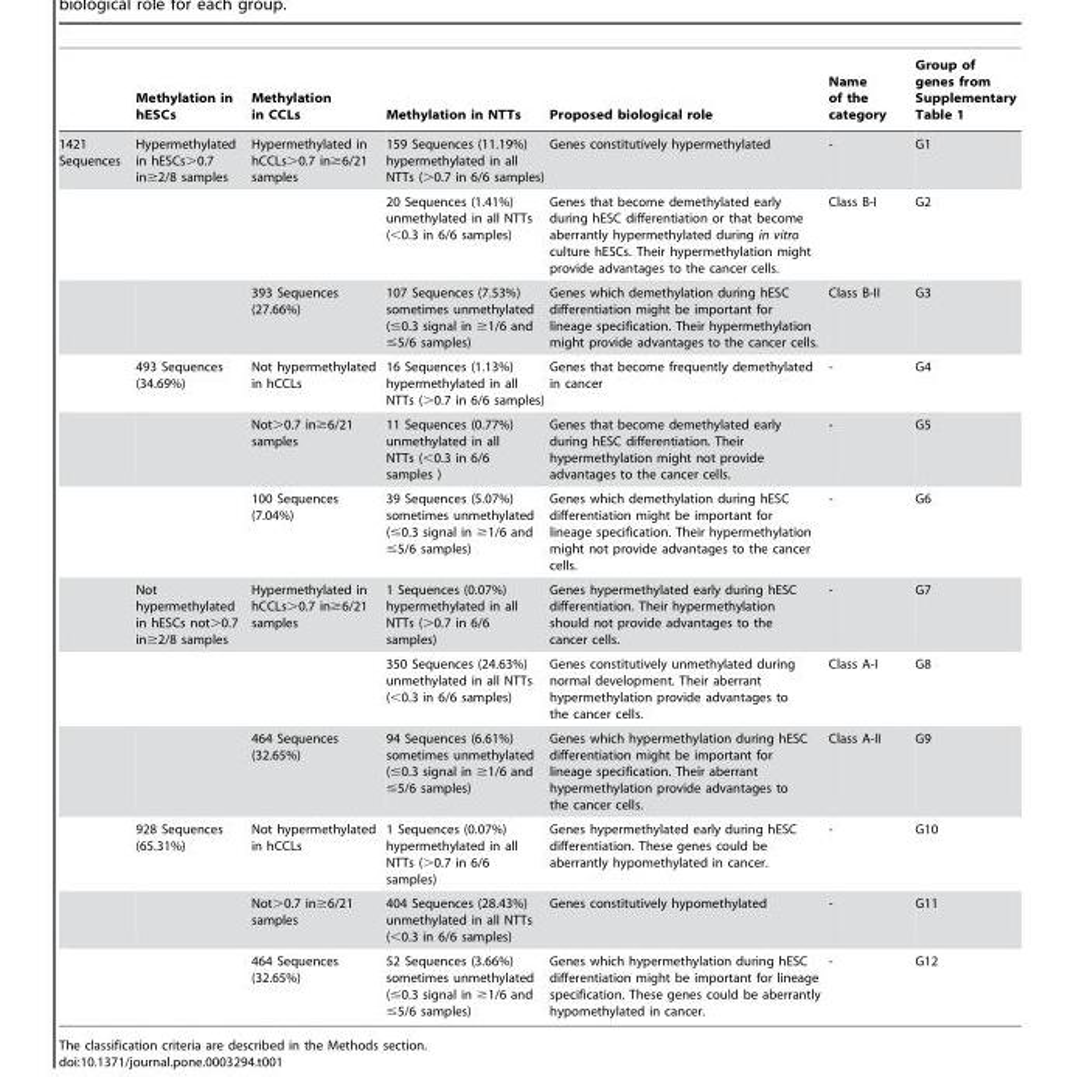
<table><thead><tr><td></td><td>Methylation in hESCs</td><td>Methylation in CCLs</td><td>Methylation in NTTs</td><td>Proposed biological role</td><td>Name of the category</td><td>Group of genes from Supplementary Table 1</td></tr></thead><tbody><tr><td rowspan="12">1421 Sequences</td><td>Hypermethylated in hESCs&gt;0.7 in≥2/8 samples</td><td>Hypermethylated in hCCLs&gt;0.7 in≥6/21 samples</td><td>159 Sequences (11.19%) hypermethylated in all NTTs (&gt;0.7 in 6/6 samples)</td><td>Genes constitutively hypermethylated</td><td>-</td><td>G1</td></tr><tr><td></td><td></td><td>20 Sequences (1.41%) unmethylated in all NTTs (&lt;0.3 in 6/6 samples)</td><td>Genes that become demethylated early during hESC differentiation or that become aberrantly hypermethylated during in vitro culture hESCs. Their hypermethylation might provide advantages to the cancer cells.</td><td>Class B-I</td><td>G2</td></tr><tr><td></td><td>393 Sequences (27.66%)</td><td>107 Sequences (7.53%) sometimes unmethylated (≤0.3 signal in ≥1/6 and ≤5/6 samples)</td><td>Genes which demethylation during hESC differentiation might be important for lineage specification. Their hypermethylation might provide advantages to the cancer cells.</td><td>Class B-II</td><td>G3</td></tr><tr><td>493 Sequences (34.69%)</td><td>Not hypermethylated in hCCLs</td><td>16 Sequences (1.13%) hypermethylated in all NTTs (&gt;0.7 in 6/6 samples)</td><td>Genes that become frequently demethylated in cancer</td><td>-</td><td>G4</td></tr><tr><td></td><td>Not&gt;0.7 in≥6/21 samples</td><td>11 Sequences (0.77%) unmethylated in all NTTs (&lt;0.3 in 6/6 samples )</td><td>Genes that become demethylated early during hESC differentiation. Their hypermethylation might not provide advantages to the cancer cells.</td><td>-</td><td>G5</td></tr><tr><td></td><td>100 Sequences (7.04%)</td><td>39 Sequences (5.07%) sometimes unmethylated (≤0.3 signal in ≥1/6 and ≤5/6 samples)</td><td>Genes which demethylation during hESC differentiation might be important for lineage specification. Their hypermethylation might not provide advantages to the cancer cells.</td><td>-</td><td>G6</td></tr><tr><td>Not hypermethylated in hESCs not&gt;0.7 in≥2/8 samples</td><td>Hypermethylated in hCCLs&gt;0.7 in≥6/21 samples</td><td>1 Sequences (0.07%) hypermethylated in all NTTs (&gt;0.7 in 6/6 samples)</td><td>Genes hypermethylated early during hESC differentiation. Their hypermethylation should not provide advantages to the cancer cells.</td><td>-</td><td>G7</td></tr><tr><td></td><td></td><td>350 Sequences (24.63%) unmethylated in all NTTs (&lt;0.3 in 6/6 samples)</td><td>Genes constitutively unmethylated during normal development. Their aberrant hypermethylation provide advantages to the cancer cells.</td><td>Class A-I</td><td>G8</td></tr><tr><td></td><td>464 Sequences (32.65%)</td><td>94 Sequences (6.61%) sometimes unmethylated (≤0.3 signal in ≥1/6 and ≤5/6 samples)</td><td>Genes which hypermethylation during hESC differentiation might be important for lineage specification. Their aberrant hypermethylation provide advantages to the cancer cells.</td><td>Class A-II</td><td>G9</td></tr><tr><td>928 Sequences (65.31%)</td><td>Not hypermethylated in hCCLs</td><td>1 Sequences (0.07%) hypermethylated in all NTTs (&gt;0.7 in 6/6 samples)</td><td>Genes hypermethylated early during hESC differentiation. These genes could be aberrantly hypomethylated in cancer.</td><td>-</td><td>G10</td></tr><tr><td></td><td>Not&gt;0.7 in≥6/21 samples</td><td>404 Sequences (28.43%) unmethylated in all NTTs (&lt;0.3 in 6/6 samples)</td><td>Genes constitutively hypomethylated</td><td>-</td><td>G11</td></tr><tr><td></td><td>464 Sequences (32.65%)</td><td>52 Sequences (3.66%) sometimes unmethylated (≤0.3 signal in ≥1/6 and ≤5/6 samples)</td><td>Genes which hypermethylation during hESC differentiation might be important for lineage specification. These genes could be aberrantly hypomethylated in cancer.</td><td>-</td><td>G12</td></tr></tbody></table>